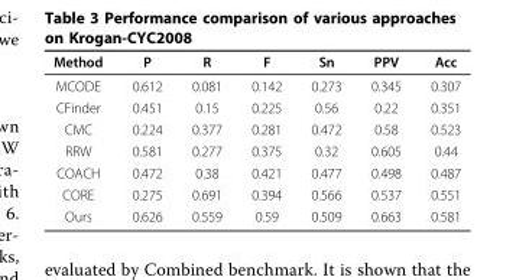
<table><thead><tr><td>Method</td><td>P</td><td>R</td><td>F</td><td>Sn</td><td>PPV</td><td>Acc</td></tr></thead><tbody><tr><td>MCODE</td><td>0.612</td><td>0.081</td><td>0.142</td><td>0.273</td><td>0.345</td><td>0.307</td></tr><tr><td>CFinder</td><td>0.451</td><td>0.15</td><td>0.225</td><td>0.56</td><td>0.22</td><td>0.351</td></tr><tr><td>CMC</td><td>0.224</td><td>0.377</td><td>0.281</td><td>0.472</td><td>0.58</td><td>0.523</td></tr><tr><td>RRW</td><td>0.581</td><td>0.277</td><td>0.375</td><td>0.32</td><td>0.605</td><td>0.44</td></tr><tr><td>COACH</td><td>0.472</td><td>0.38</td><td>0.421</td><td>0.477</td><td>0.498</td><td>0.487</td></tr><tr><td>CORE</td><td>0.275</td><td>0.691</td><td>0.394</td><td>0.566</td><td>0.537</td><td>0.551</td></tr><tr><td>Ours</td><td>0.626</td><td>0.559</td><td>0.59</td><td>0.509</td><td>0.663</td><td>0.581</td></tr></tbody></table>